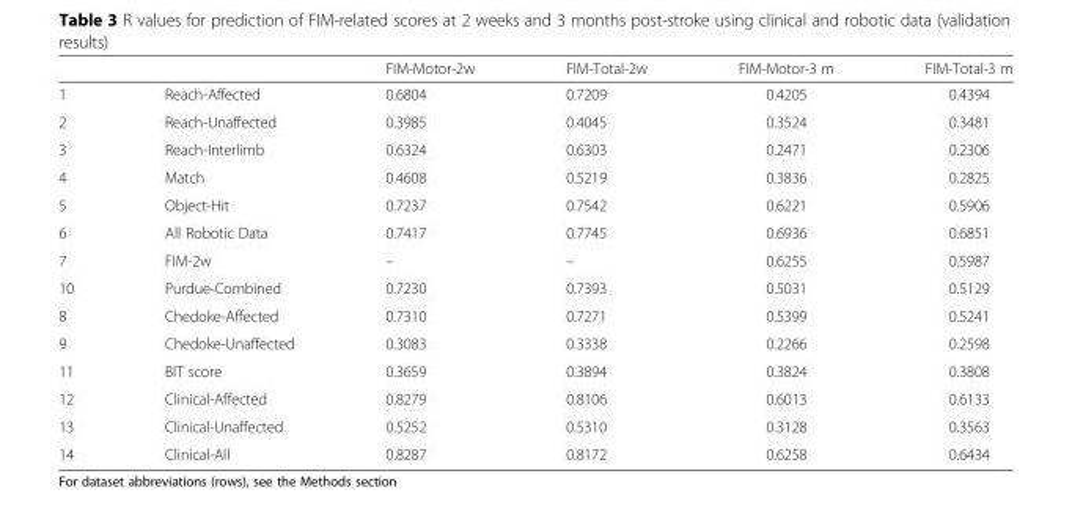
<table><thead><tr><td></td><td></td><td>FIM-Motor-2w</td><td>FIM-Total-2w</td><td>FIM-Motor-3 m</td><td>FIM-Total-3 m</td></tr></thead><tbody><tr><td>1</td><td>Reach-Affected</td><td>0.6804</td><td>0.7209</td><td>0.4205</td><td>0.4394</td></tr><tr><td>2</td><td>Reach-Unaffected</td><td>0.3985</td><td>0.4045</td><td>0.3524</td><td>0.3481</td></tr><tr><td>3</td><td>Reach-Interlimb</td><td>0.6324</td><td>0.6303</td><td>0.2471</td><td>0.2306</td></tr><tr><td>4</td><td>Match</td><td>0.4608</td><td>0.5219</td><td>0.3836</td><td>0.2825</td></tr><tr><td>5</td><td>Object-Hit</td><td>0.7237</td><td>0.7542</td><td>0.6221</td><td>0.5906</td></tr><tr><td>6</td><td>All Robotic Data</td><td>0.7417</td><td>0.7745</td><td>0.6936</td><td>0.6851</td></tr><tr><td>7</td><td>FIM-2w</td><td>–</td><td>–</td><td>0.6255</td><td>0.5987</td></tr><tr><td>10</td><td>Purdue-Combined</td><td>0.7230</td><td>0.7393</td><td>0.5031</td><td>0.5129</td></tr><tr><td>8</td><td>Chedoke-Affected</td><td>0.7310</td><td>0.7271</td><td>0.5399</td><td>0.5241</td></tr><tr><td>9</td><td>Chedoke-Unaffected</td><td>0.3083</td><td>0.3338</td><td>0.2266</td><td>0.2598</td></tr><tr><td>11</td><td>BIT score</td><td>0.3659</td><td>0.3894</td><td>0.3824</td><td>0.3808</td></tr><tr><td>12</td><td>Clinical-Affected</td><td>0.8279</td><td>0.8106</td><td>0.6013</td><td>0.6133</td></tr><tr><td>13</td><td>Clinical-Unaffected</td><td>0.5252</td><td>0.5310</td><td>0.3128</td><td>0.3563</td></tr><tr><td>14</td><td>Clinical-All</td><td>0.8287</td><td>0.8172</td><td>0.6258</td><td>0.6434</td></tr></tbody></table>